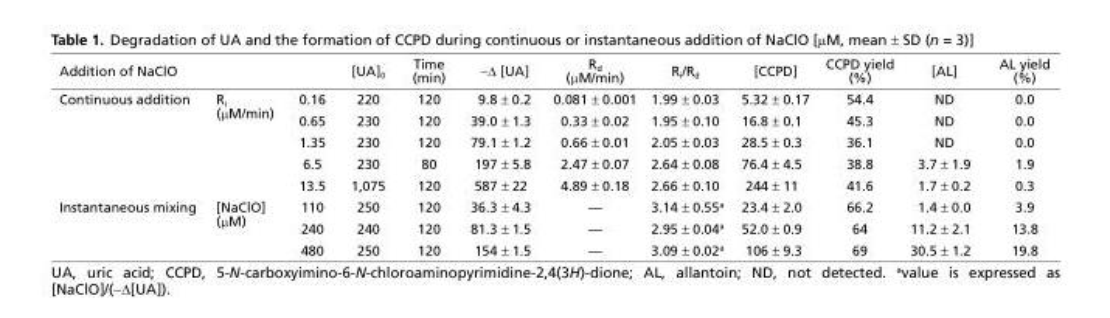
<table><thead><tr><td>Addition of NaClO</td><td></td><td></td><td>[UA]<sub>0</sub></td><td>Time (min)</td><td>−Δ [UA]</td><td>R<sub>d</sub> (μM/min)</td><td>R<sub>i</sub>/R<sub>d</sub></td><td>[CCPD]</td><td>CCPD yield (%)</td><td>[AL]</td><td>AL yield (%)</td></tr></thead><tbody><tr><td rowspan="5">Continuous addition</td><td rowspan="5">R<sub>i</sub> (μM/min)</td><td>0.16</td><td>220</td><td>120</td><td>9.8 ± 0.2</td><td>0.081 ± 0.001</td><td>1.99 ± 0.03</td><td>5.32 ± 0.17</td><td>54.4</td><td>ND</td><td>0.0</td></tr><tr><td>0.65</td><td>230</td><td>120</td><td>39.0 ± 1.3</td><td>0.33 ± 0.02</td><td>1.95 ± 0.10</td><td>16.8 ± 0.1</td><td>45.3</td><td>ND</td><td>0.0</td></tr><tr><td>1.35</td><td>230</td><td>120</td><td>79.1 ± 1.2</td><td>0.66 ± 0.01</td><td>2.05 ± 0.03</td><td>28.5 ± 0.3</td><td>36.1</td><td>ND</td><td>0.0</td></tr><tr><td>6.5</td><td>230</td><td>80</td><td>197 ± 5.8</td><td>2.47 ± 0.07</td><td>2.64 ± 0.08</td><td>76.4 ± 4.5</td><td>38.8</td><td>3.7 ± 1.9</td><td>1.9</td></tr><tr><td>13.5</td><td>1,075</td><td>120</td><td>587 ± 22</td><td>4.89 ± 0.18</td><td>2.66 ± 0.10</td><td>244 ± 11</td><td>41.6</td><td>1.7 ± 0.2</td><td>0.3</td></tr><tr><td rowspan="3">Instantaneous mixing</td><td rowspan="3">[NaClO] (μM)</td><td>110</td><td>250</td><td>120</td><td>36.3 ± 4.3</td><td>—</td><td>3.14 ± 0.55<sup>a</sup></td><td>23.4 ± 2.0</td><td>66.2</td><td>1.4 ± 0.0</td><td>3.9</td></tr><tr><td>240</td><td>240</td><td>120</td><td>81.3 ± 1.5</td><td>—</td><td>2.95 ± 0.04<sup>a</sup></td><td>52.0 ± 0.9</td><td>64</td><td>11.2 ± 2.1</td><td>13.8</td></tr><tr><td>480</td><td>250</td><td>120</td><td>154 ± 1.5</td><td>—</td><td>3.09 ± 0.02<sup>a</sup></td><td>106 ± 9.3</td><td>69</td><td>30.5 ± 1.2</td><td>19.8</td></tr></tbody></table>